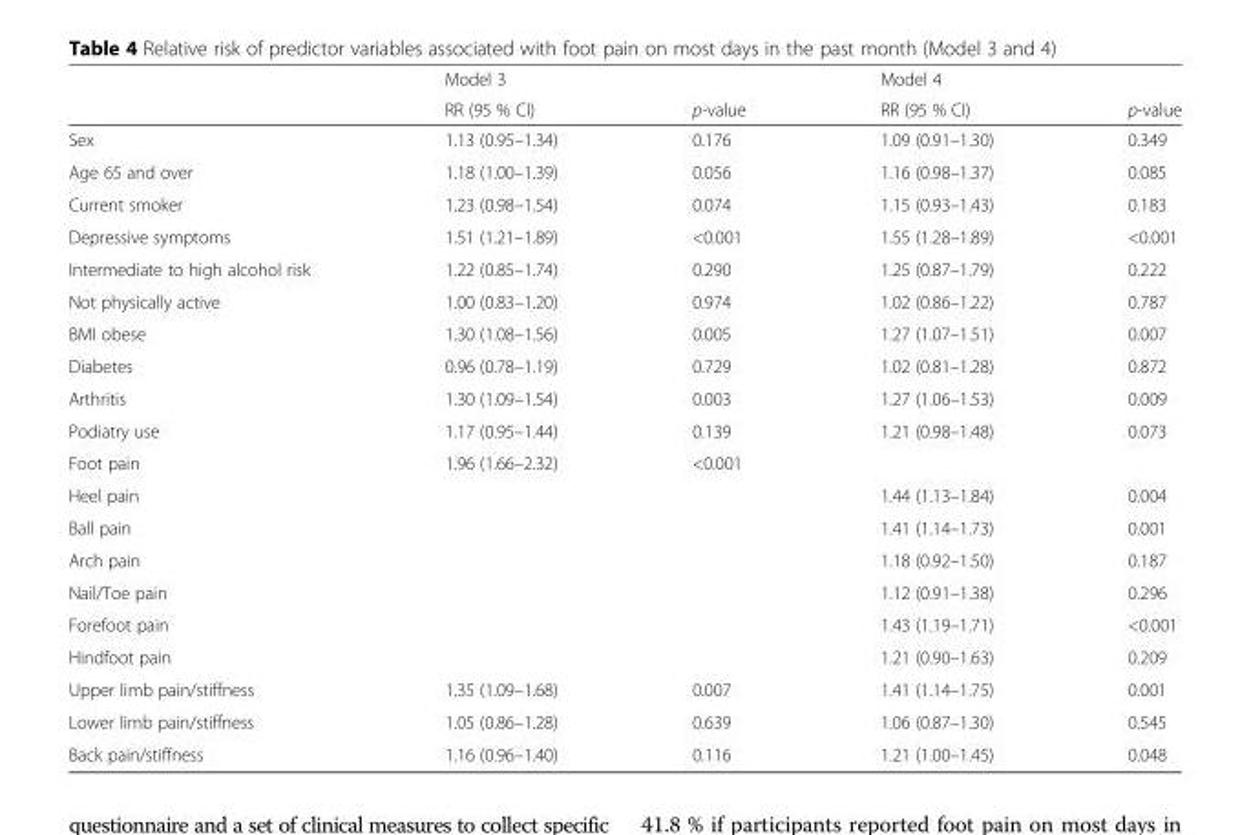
<table><thead><tr><td rowspan="2"></td><td rowspan="2">Model 3 RR (95 % CI)</td><td rowspan="2">p-value</td><td rowspan="2">Model 4 RR (95 % CI)</td><td rowspan="2">p-value</td></tr><tr></tr></thead><tbody><tr><td>Sex</td><td>1.13 (0.95–1.34)</td><td>0.176</td><td>1.09 (0.91–1.30)</td><td>0.349</td></tr><tr><td>Age 65 and over</td><td>1.18 (1.00–1.39)</td><td>0.056</td><td>1.16 (0.98–1.37)</td><td>0.085</td></tr><tr><td>Current smoker</td><td>1.23 (0.98–1.54)</td><td>0.074</td><td>1.15 (0.93–1.43)</td><td>0.183</td></tr><tr><td>Depressive symptoms</td><td>1.51 (1.21–1.89)</td><td>&lt;0.001</td><td>1.55 (1.28–1.89)</td><td>&lt;0.001</td></tr><tr><td>Intermediate to high alcohol risk</td><td>1.22 (0.85–1.74)</td><td>0.290</td><td>1.25 (0.87–1.79)</td><td>0.222</td></tr><tr><td>Not physically active</td><td>1.00 (0.83–1.20)</td><td>0.974</td><td>1.02 (0.86–1.22)</td><td>0.787</td></tr><tr><td>BMI obese</td><td>1.30 (1.08–1.56)</td><td>0.005</td><td>1.27 (1.07–1.51)</td><td>0.007</td></tr><tr><td>Diabetes</td><td>0.96 (0.78–1.19)</td><td>0.729</td><td>1.02 (0.81–1.28)</td><td>0.872</td></tr><tr><td>Arthritis</td><td>1.30 (1.09–1.54)</td><td>0.003</td><td>1.27 (1.06–1.53)</td><td>0.009</td></tr><tr><td>Podiatry use</td><td>1.17 (0.95–1.44)</td><td>0.139</td><td>1.21 (0.98–1.48)</td><td>0.073</td></tr><tr><td>Foot pain</td><td>1.96 (1.66–2.32)</td><td>&lt;0.001</td><td></td><td></td></tr><tr><td>Heel pain</td><td></td><td></td><td>1.44 (1.13–1.84)</td><td>0.004</td></tr><tr><td>Ball pain</td><td></td><td></td><td>1.41 (1.14–1.73)</td><td>0.001</td></tr><tr><td>Arch pain</td><td></td><td></td><td>1.18 (0.92–1.50)</td><td>0.187</td></tr><tr><td>Nail/Toe pain</td><td></td><td></td><td>1.12 (0.91–1.38)</td><td>0.296</td></tr><tr><td>Forefoot pain</td><td></td><td></td><td>1.43 (1.19–1.71)</td><td>&lt;0.001</td></tr><tr><td>Hindfoot pain</td><td></td><td></td><td>1.21 (0.90–1.63)</td><td>0.209</td></tr><tr><td>Upper limb pain/stiffness</td><td>1.35 (1.09–1.68)</td><td>0.007</td><td>1.41 (1.14–1.75)</td><td>0.001</td></tr><tr><td>Lower limb pain/stiffness</td><td>1.05 (0.86–1.28)</td><td>0.639</td><td>1.06 (0.87–1.30)</td><td>0.545</td></tr><tr><td>Back pain/stiffness</td><td>1.16 (0.96–1.40)</td><td>0.116</td><td>1.21 (1.00–1.45)</td><td>0.048</td></tr></tbody></table>